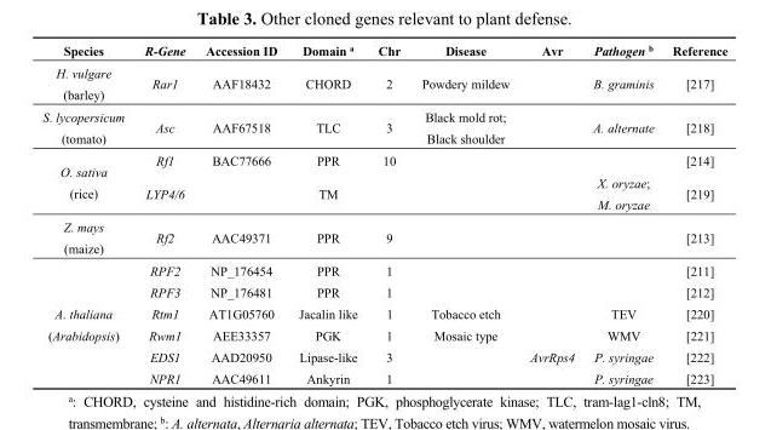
<table><thead><tr><td>Species</td><td>R-Gene</td><td>Accession ID</td><td>Domain <sup>a</sup></td><td>Chr</td><td>Disease</td><td>Avr</td><td>Pathogen <sup>b</sup></td><td>Reference</td></tr></thead><tbody><tr><td>H. vulgare (barley)</td><td>Rar1</td><td>AAF18432</td><td>CHORD</td><td>2</td><td>Powdery mildew</td><td></td><td>B. graminis</td><td>[217]</td></tr><tr><td>S. lycopersicum (tomato)</td><td>Asc</td><td>AAF67518</td><td>TLC</td><td>3</td><td>Black mold rot; Black shoulder</td><td></td><td>A. alternate</td><td>[218]</td></tr><tr><td rowspan="2">O. sativa (rice)</td><td>Rf1</td><td>BAC77666</td><td>PPR</td><td>10</td><td></td><td></td><td></td><td>[214]</td></tr><tr><td>LYP4/6</td><td></td><td>TM</td><td></td><td></td><td></td><td>X. oryzae; M. oryzae</td><td>[219]</td></tr><tr><td>Z. mays (maize)</td><td>Rf2</td><td>AAC49371</td><td>PPR</td><td>9</td><td></td><td></td><td></td><td>[213]</td></tr><tr><td rowspan="6">A. thaliana (Arabidopsis)</td><td>RPF2</td><td>NP_176454</td><td>PPR</td><td>1</td><td></td><td></td><td></td><td>[211]</td></tr><tr><td>RPF3</td><td>NP_176481</td><td>PPR</td><td>1</td><td></td><td></td><td></td><td>[212]</td></tr><tr><td>Rtm1</td><td>AT1G05760</td><td>Jacalin like</td><td>1</td><td>Tobacco etch</td><td></td><td>TEV</td><td>[220]</td></tr><tr><td>Rwm1</td><td>AEE33357</td><td>PGK</td><td>1</td><td>Mosaic type</td><td></td><td>WMV</td><td>[221]</td></tr><tr><td>EDS1</td><td>AAD20950</td><td>Lipase-like</td><td>3</td><td></td><td>AvrRps4</td><td>P. syringae</td><td>[222]</td></tr><tr><td>NPR1</td><td>AAC49611</td><td>Ankyrin</td><td>1</td><td></td><td></td><td>P. syringae</td><td>[223]</td></tr></tbody></table>